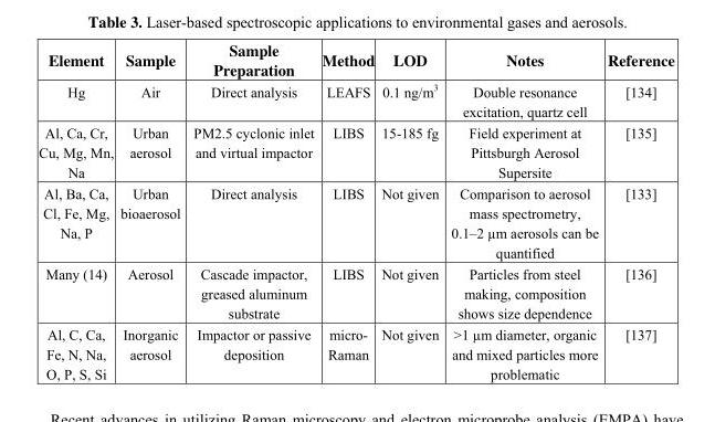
<table><thead><tr><td>Element</td><td>Sample</td><td>Sample Preparation</td><td>Method</td><td>LOD</td><td>Notes</td><td>Reference</td></tr></thead><tbody><tr><td>Hg</td><td>Air</td><td>Direct analysis</td><td>LEAFS</td><td>0.1 ng/m<sup>3</sup></td><td>Double resonance excitation, quartz cell</td><td>[134]</td></tr><tr><td>Al, Ca, Cr, Cu, Mg, Mn, Na</td><td>Urban aerosol</td><td>PM2.5 cyclonic inlet and virtual impactor</td><td>LIBS</td><td>15-185 fg</td><td>Field experiment at Pittsburgh Aerosol Supersite</td><td>[135]</td></tr><tr><td>Al, Ba, Ca, Cl, Fe, Mg, Na, P</td><td>Urban bioaerosol</td><td>Direct analysis</td><td>LIBS</td><td>Not given</td><td>Comparison to aerosol mass spectrometry, 0.1–2 µm aerosols can be quantified</td><td>[133]</td></tr><tr><td>Many (14)</td><td>Aerosol</td><td>Cascade impactor, greased aluminum substrate</td><td>LIBS</td><td>Not given</td><td>Particles from steel making, composition shows size dependence</td><td>[136]</td></tr><tr><td>Al, C, Ca, Fe, N, Na, O, P, S, Si</td><td>Inorganic aerosol</td><td>Impactor or passive deposition</td><td>micro- Raman</td><td>Not given</td><td>&gt;1 µm diameter, organic and mixed particles more problematic</td><td>[137]</td></tr></tbody></table>